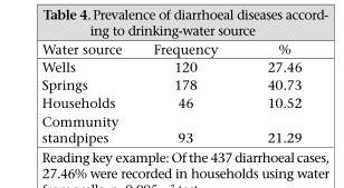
<table><thead><tr><td>Water source</td><td>Frequency</td><td>%</td></tr></thead><tbody><tr><td>Wells</td><td>120</td><td>27.46</td></tr><tr><td>Springs</td><td>178</td><td>40.73</td></tr><tr><td>Households</td><td>46</td><td>10.52</td></tr><tr><td>Community standpipes</td><td>93</td><td>21.29</td></tr></tbody></table>